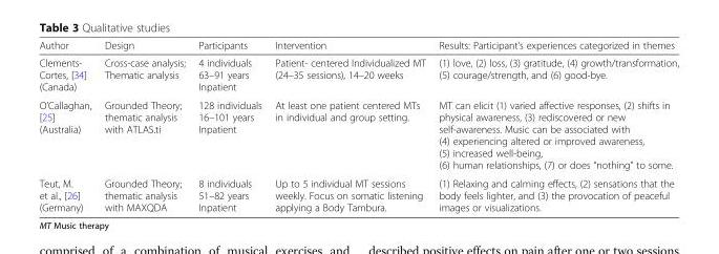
<table><thead><tr><td>Author</td><td>Design</td><td>Participants</td><td>Intervention</td><td>Results: Participant’s experiences categorized in themes</td></tr></thead><tbody><tr><td>Clements- Cortes, [34] (Canada)</td><td>Cross-case analysis; Thematic analysis</td><td>4 individuals 63–91 years Inpatient</td><td>Patient- centered Individualized MT (24–35 sessions), 14–20 weeks</td><td>(1) love, (2) loss, (3) gratitude, (4) growth/transformation, (5) courage/strength, and (6) good-bye.</td></tr><tr><td>O’Callaghan, [25] (Australia)</td><td>Grounded Theory; thematic analysis with ATLAS.ti</td><td>128 individuals 16–101 years Inpatient</td><td>At least one patient centered MTs in individual and group setting.</td><td>MT can elicit (1) varied affective responses, (2) shifts in physical awareness, (3) rediscovered or new self-awareness. Music can be associated with (4) experiencing altered or improved awareness, (5) increased well-being, (6) human relationships, (7) or does “nothing” to some.</td></tr><tr><td>Teut, M. et al., [26] (Germany)</td><td>Grounded Theory; thematic analysis with MAXQDA</td><td>8 individuals 51–82 years Inpatient</td><td>Up to 5 individual MT sessions weekly. Focus on somatic listening applying a Body Tambura.</td><td>(1) Relaxing and calming effects, (2) sensations that the body feels lighter, and (3) the provocation of peaceful images or visualizations.</td></tr></tbody></table>